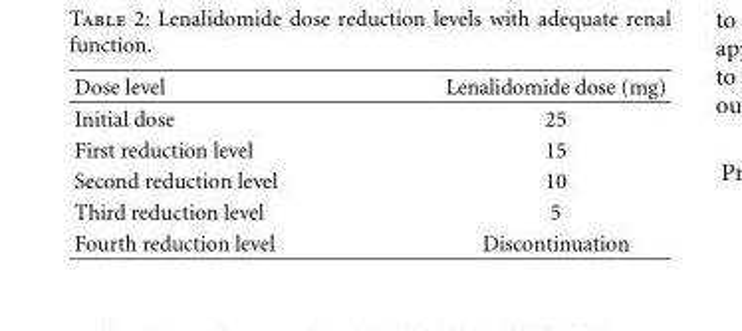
<table><thead><tr><td>Dose level</td><td>Lenalidomide dose (mg)</td></tr></thead><tbody><tr><td>Initial dose</td><td>25</td></tr><tr><td>First reduction level</td><td>15</td></tr><tr><td>Second reduction level</td><td>10</td></tr><tr><td>Third reduction level</td><td>5</td></tr><tr><td>Fourth reduction level</td><td>Discontinuation</td></tr></tbody></table>